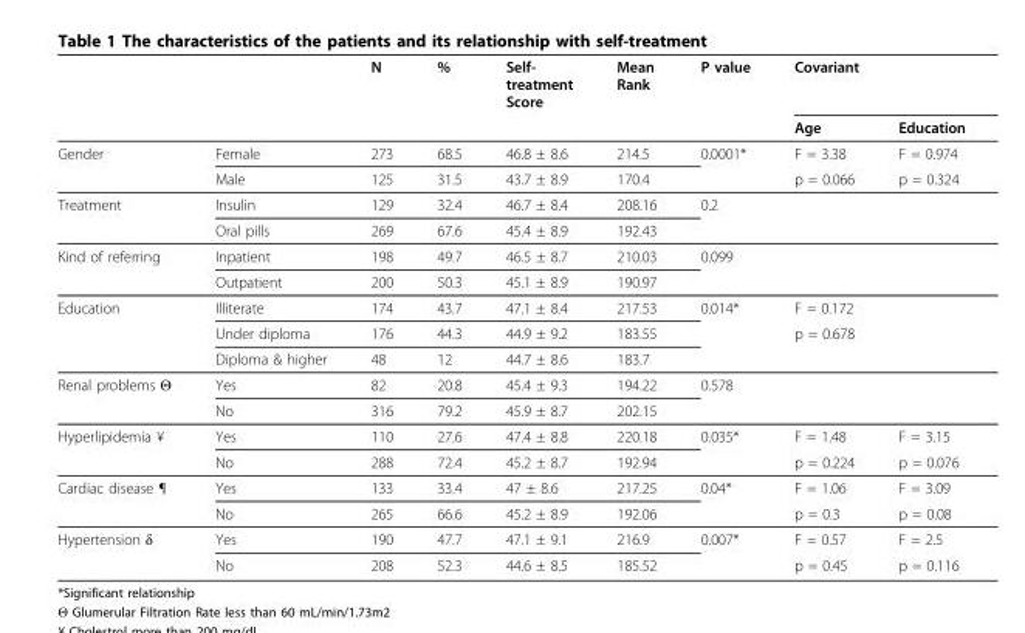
<table><thead><tr><td rowspan="2"></td><td rowspan="2"></td><td rowspan="2">N</td><td rowspan="2">%</td><td rowspan="2">Self- treatment Score</td><td rowspan="2">Mean Rank</td><td rowspan="2">P value</td><td colspan="2">Covariant</td></tr><tr><td>Age</td><td>Education</td></tr></thead><tbody><tr><td rowspan="2">Gender</td><td>Female</td><td>273</td><td>68.5</td><td>46.8 ± 8.6</td><td>214.5</td><td>0.0001*</td><td>F = 3.38</td><td>F = 0.974</td></tr><tr><td>Male</td><td>125</td><td>31.5</td><td>43.7 ± 8.9</td><td>170.4</td><td></td><td>p = 0.066</td><td>p = 0.324</td></tr><tr><td rowspan="2">Treatment</td><td>Insulin</td><td>129</td><td>32.4</td><td>46.7 ± 8.4</td><td>208.16</td><td>0.2</td><td></td><td></td></tr><tr><td>Oral pills</td><td>269</td><td>67.6</td><td>45.4 ± 8.9</td><td>192.43</td><td></td><td></td><td></td></tr><tr><td rowspan="2">Kind of referring</td><td>Inpatient</td><td>198</td><td>49.7</td><td>46.5 ± 8.7</td><td>210.03</td><td>0.099</td><td></td><td></td></tr><tr><td>Outpatient</td><td>200</td><td>50.3</td><td>45.1 ± 8.9</td><td>190.97</td><td></td><td></td><td></td></tr><tr><td rowspan="3">Education</td><td>Illiterate</td><td>174</td><td>43.7</td><td>47.1 ± 8.4</td><td>217.53</td><td>0.014*</td><td>F = 0.172</td><td></td></tr><tr><td>Under diploma</td><td>176</td><td>44.3</td><td>44.9 ± 9.2</td><td>183.55</td><td></td><td>p = 0.678</td><td></td></tr><tr><td>Diploma &amp; higher</td><td>48</td><td>12</td><td>44.7 ± 8.6</td><td>183.7</td><td></td><td></td><td></td></tr><tr><td rowspan="2">Renal problems Θ</td><td>Yes</td><td>82</td><td>20.8</td><td>45.4 ± 9.3</td><td>194.22</td><td>0.578</td><td></td><td></td></tr><tr><td>No</td><td>316</td><td>79.2</td><td>45.9 ± 8.7</td><td>202.15</td><td></td><td></td><td></td></tr><tr><td rowspan="2">Hyperlipidemia ¥</td><td>Yes</td><td>110</td><td>27.6</td><td>47.4 ± 8.8</td><td>220.18</td><td>0.035*</td><td>F = 1.48</td><td>F = 3.15</td></tr><tr><td>No</td><td>288</td><td>72.4</td><td>45.2 ± 8.7</td><td>192.94</td><td></td><td>p = 0.224</td><td>p = 0.076</td></tr><tr><td rowspan="2">Cardiac disease ¶</td><td>Yes</td><td>133</td><td>33.4</td><td>47 ± 8.6</td><td>217.25</td><td>0.04*</td><td>F = 1.06</td><td>F = 3.09</td></tr><tr><td>No</td><td>265</td><td>66.6</td><td>45.2 ± 8.9</td><td>192.06</td><td></td><td>p = 0.3</td><td>p = 0.08</td></tr><tr><td rowspan="2">Hypertension δ</td><td>Yes</td><td>190</td><td>47.7</td><td>47.1 ± 9.1</td><td>216.9</td><td>0.007*</td><td>F = 0.57</td><td>F = 2.5</td></tr><tr><td>No</td><td>208</td><td>52.3</td><td>44.6 ± 8.5</td><td>185.52</td><td></td><td>p = 0.45</td><td>p = 0.116</td></tr></tbody></table>